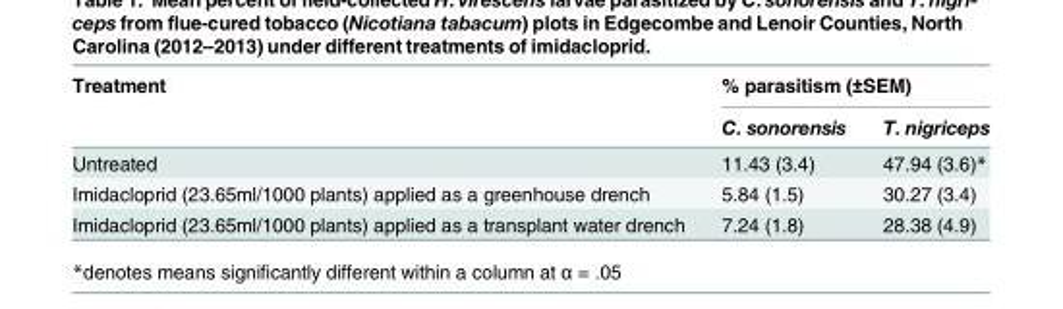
<table><thead><tr><td rowspan="2">Treatment</td><td colspan="2">% parasitism (±SEM)</td></tr><tr><td>C. sonorensis</td><td>T. nigriceps</td></tr></thead><tbody><tr><td>Untreated</td><td>11.43 (3.4)</td><td>47.94 (3.6)*</td></tr><tr><td>Imidacloprid (23.65ml/1000 plants) applied as a greenhouse drench</td><td>5.84 (1.5)</td><td>30.27 (3.4)</td></tr><tr><td>Imidacloprid (23.65ml/1000 plants) applied as a transplant water drench</td><td>7.24 (1.8)</td><td>28.38 (4.9)</td></tr></tbody></table>